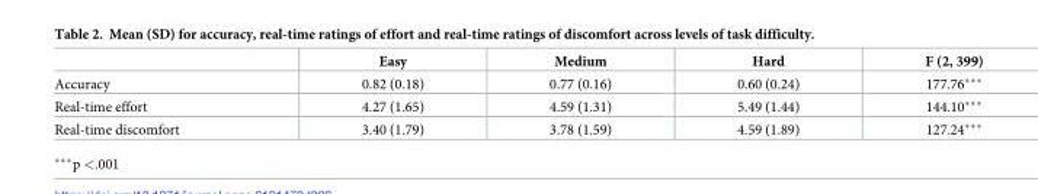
<table><thead><tr><td></td><td>Easy</td><td>Medium</td><td>Hard</td><td>F (2, 399)</td></tr></thead><tbody><tr><td>Accuracy</td><td>0.82 (0.18)</td><td>0.77 (0.16)</td><td>0.60 (0.24)</td><td>177.76***</td></tr><tr><td>Real-time effort</td><td>4.27 (1.65)</td><td>4.59 (1.31)</td><td>5.49 (1.44)</td><td>144.10***</td></tr><tr><td>Real-time discomfort</td><td>3.40 (1.79)</td><td>3.78 (1.59)</td><td>4.59 (1.89)</td><td>127.24***</td></tr></tbody></table>